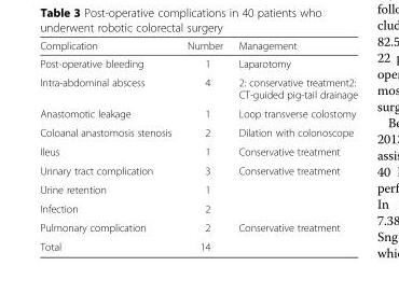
<table><thead><tr><td>Complication</td><td>Number</td><td>Management</td></tr></thead><tbody><tr><td>Post-operative bleeding</td><td>1</td><td>Laparotomy</td></tr><tr><td>Intra-abdominal abscess</td><td>4</td><td>2: conservative treatment2: CT-guided pig-tail drainage</td></tr><tr><td>Anastomotic leakage</td><td>1</td><td>Loop transverse colostomy</td></tr><tr><td>Coloanal anastomosis stenosis</td><td>2</td><td>Dilation with colonoscope</td></tr><tr><td>Ileus</td><td>1</td><td>Conservative treatment</td></tr><tr><td>Urinary tract complication</td><td>3</td><td rowspan="3">Conservative treatment</td></tr><tr><td>Urine retention</td><td>1</td></tr><tr><td>Infection</td><td>2</td></tr><tr><td>Pulmonary complication</td><td>2</td><td>Conservative treatment</td></tr><tr><td>Total</td><td>14</td><td></td></tr></tbody></table>